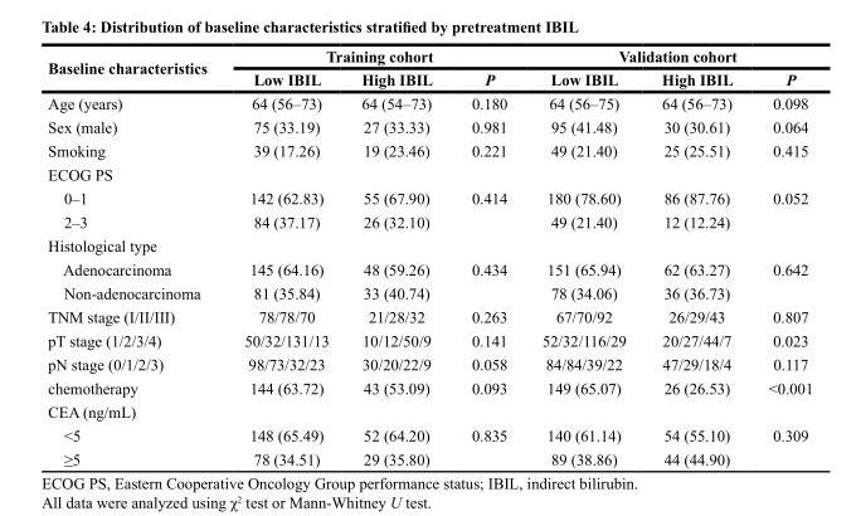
<table><thead><tr><td rowspan="2">Baseline characteristics</td><td colspan="3">Training cohort</td><td colspan="3">Validation cohort</td></tr><tr><td>Low IBIL</td><td>High IBIL</td><td>P</td><td>Low IBIL</td><td>High IBIL</td><td>P</td></tr></thead><tbody><tr><td>Age (years)</td><td>64 (56–73)</td><td>64 (54–73)</td><td>0.180</td><td>64 (56–75)</td><td>64 (56–73)</td><td>0.098</td></tr><tr><td>Sex (male)</td><td>75 (33.19)</td><td>27 (33.33)</td><td>0.981</td><td>95 (41.48)</td><td>30 (30.61)</td><td>0.064</td></tr><tr><td>Smoking</td><td>39 (17.26)</td><td>19 (23.46)</td><td>0.221</td><td>49 (21.40)</td><td>25 (25.51)</td><td>0.415</td></tr><tr><td colspan="7">ECOG PS</td></tr><tr><td>0–1</td><td>142 (62.83)</td><td>55 (67.90)</td><td>0.414</td><td>180 (78.60)</td><td>86 (87.76)</td><td>0.052</td></tr><tr><td>2–3</td><td>84 (37.17)</td><td>26 (32.10)</td><td></td><td>49 (21.40)</td><td>12 (12.24)</td><td></td></tr><tr><td colspan="7">Histological type</td></tr><tr><td>Adenocarcinoma</td><td>145 (64.16)</td><td>48 (59.26)</td><td>0.434</td><td>151 (65.94)</td><td>62 (63.27)</td><td>0.642</td></tr><tr><td>Non-adenocarcinoma</td><td>81 (35.84)</td><td>33 (40.74)</td><td></td><td>78 (34.06)</td><td>36 (36.73)</td><td></td></tr><tr><td>TNM stage (I/II/III)</td><td>78/78/70</td><td>21/28/32</td><td>0.263</td><td>67/70/92</td><td>26/29/43</td><td>0.807</td></tr><tr><td>pT stage (1/2/3/4)</td><td>50/32/131/13</td><td>10/12/50/9</td><td>0.141</td><td>52/32/116/29</td><td>20/27/44/7</td><td>0.023</td></tr><tr><td>pN stage (0/1/2/3)</td><td>98/73/32/23</td><td>30/20/22/9</td><td>0.058</td><td>84/84/39/22</td><td>47/29/18/4</td><td>0.117</td></tr><tr><td>chemotherapy</td><td>144 (63.72)</td><td>43 (53.09)</td><td>0.093</td><td>149 (65.07)</td><td>26 (26.53)</td><td>&lt;0.001</td></tr><tr><td colspan="7">CEA (ng/mL)</td></tr><tr><td>&lt;5</td><td>148 (65.49)</td><td>52 (64.20)</td><td>0.835</td><td>140 (61.14)</td><td>54 (55.10)</td><td>0.309</td></tr><tr><td>≥5</td><td>78 (34.51)</td><td>29 (35.80)</td><td></td><td>89 (38.86)</td><td>44 (44.90)</td><td></td></tr></tbody></table>